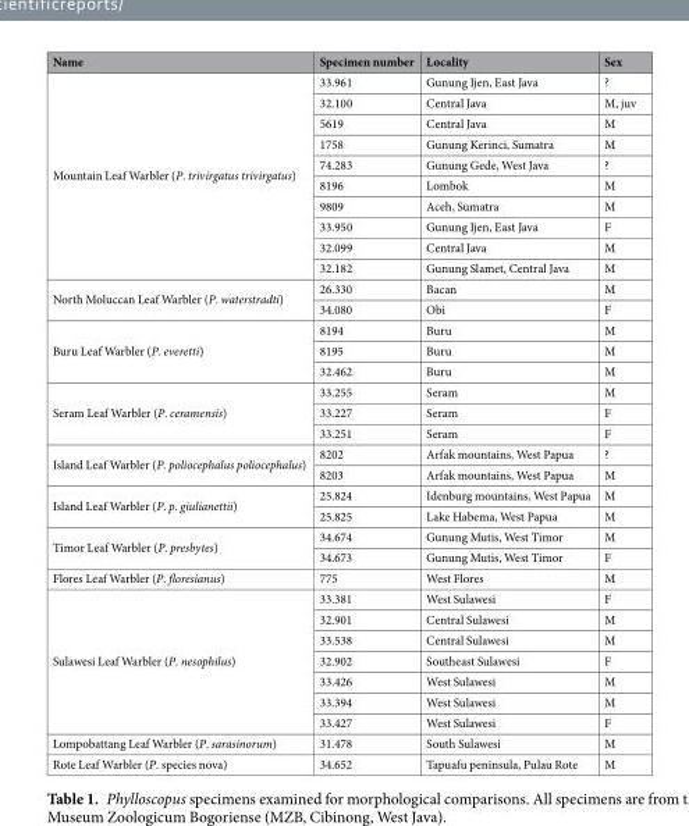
<table><thead><tr><td>Name</td><td>Specimen number</td><td>Locality</td><td>Sex</td></tr></thead><tbody><tr><td rowspan="10">Mountain Leaf Warbler (P. trivirgatus trivirgatus)</td><td>33.961</td><td>Gunung Ijen, East Java</td><td>?</td></tr><tr><td>32.100</td><td>Central Java</td><td>M, juv</td></tr><tr><td>5619</td><td>Central Java</td><td>M</td></tr><tr><td>1758</td><td>Gunung Kerinci, Sumatra</td><td>M</td></tr><tr><td>74.283</td><td>Gunung Gede, West Java</td><td>?</td></tr><tr><td>8196</td><td>Lombok</td><td>M</td></tr><tr><td>9809</td><td>Aceh, Sumatra</td><td>M</td></tr><tr><td>33.950</td><td>Gunung Ijen, East Java</td><td>F</td></tr><tr><td>32.099</td><td>Central Java</td><td>M</td></tr><tr><td>32.182</td><td>Gunung Slamet, Central Java</td><td>M</td></tr><tr><td rowspan="2">North Moluccan Leaf Warbler (P. waterstradti)</td><td>26.330</td><td>Bacan</td><td>M</td></tr><tr><td>34.080</td><td>Obi</td><td>F</td></tr><tr><td rowspan="3">Buru Leaf Warbler (P. everetti)</td><td>8194</td><td>Buru</td><td>M</td></tr><tr><td>8195</td><td>Buru</td><td>M</td></tr><tr><td>32.462</td><td>Buru</td><td>M</td></tr><tr><td rowspan="3">Seram Leaf Warbler (P. ceramensis)</td><td>33.255</td><td>Seram</td><td>M</td></tr><tr><td>33.227</td><td>Seram</td><td>F</td></tr><tr><td>33.251</td><td>Seram</td><td>F</td></tr><tr><td rowspan="2">Island Leaf Warbler (P. poliocephalus poliocephalus)</td><td>8202</td><td>Arfak mountains, West Papua</td><td>?</td></tr><tr><td>8203</td><td>Arfak mountains, West Papua</td><td>M</td></tr><tr><td rowspan="2">Island Leaf Warbler (P. p. giulianettii)</td><td>25.824</td><td>Idenburg mountains, West Papua</td><td>M</td></tr><tr><td>25.825</td><td>Lake Habema, West Papua</td><td>M</td></tr><tr><td rowspan="2">Timor Leaf Warbler (P. presbytes)</td><td>34.674</td><td>Gunung Mutis, West Timor</td><td>M</td></tr><tr><td>34.673</td><td>Gunung Mutis, West Timor</td><td>F</td></tr><tr><td>Flores Leaf Warbler (P. floresianus)</td><td>775</td><td>West Flores</td><td>M</td></tr><tr><td rowspan="7">Sulawesi Leaf Warbler (P. nesophilus)</td><td>33.381</td><td>West Sulawesi</td><td>F</td></tr><tr><td>32.901</td><td>Central Sulawesi</td><td>M</td></tr><tr><td>33.538</td><td>Central Sulawesi</td><td>M</td></tr><tr><td>32.902</td><td>Southeast Sulawesi</td><td>F</td></tr><tr><td>33.426</td><td>West Sulawesi</td><td>M</td></tr><tr><td>33.394</td><td>West Sulawesi</td><td>M</td></tr><tr><td>33.427</td><td>West Sulawesi</td><td>F</td></tr><tr><td>Lompobattang Leaf Warbler (P. sarasinorum)</td><td>31.478</td><td>South Sulawesi</td><td>M</td></tr><tr><td>Rote Leaf Warbler (P. species nova)</td><td>34.652</td><td>Tapuafu peninsula, Pulau Rote</td><td>M</td></tr></tbody></table>